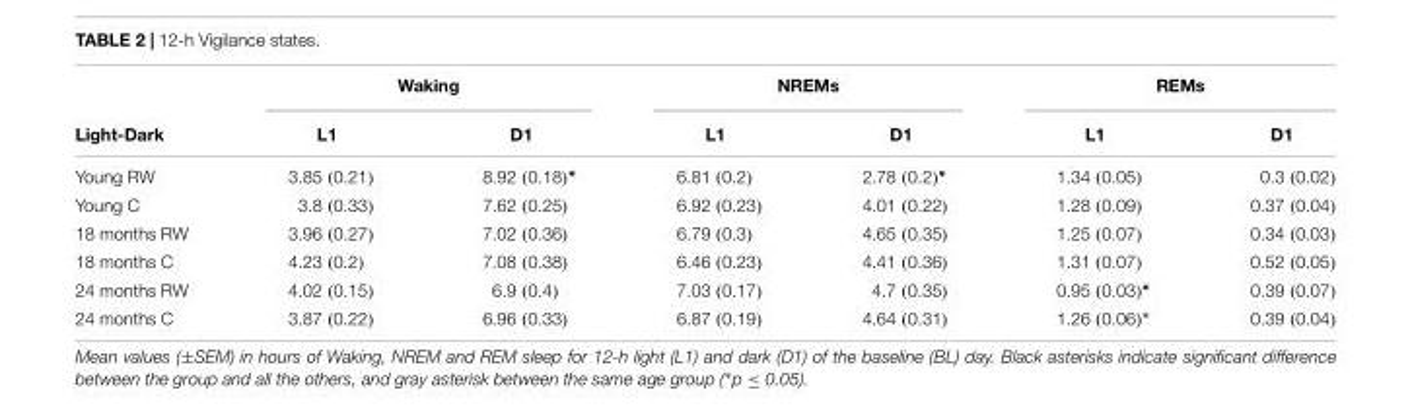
<table><thead><tr><td rowspan="2">Light-Dark</td><td colspan="2">Waking</td><td colspan="2">NREMs</td><td colspan="2">REMs</td></tr><tr><td>L1</td><td>D1</td><td>L1</td><td>D1</td><td>L1</td><td>D1</td></tr></thead><tbody><tr><td>Young RW</td><td>3.85 (0.21)</td><td>8.92 (0.18)∗</td><td>6.81 (0.2)</td><td>2.78 (0.2)∗</td><td>1.34 (0.05)</td><td>0.3 (0.02)</td></tr><tr><td>Young C</td><td>3.8 (0.33)</td><td>7.62 (0.25)</td><td>6.92 (0.23)</td><td>4.01 (0.22)</td><td>1.28 (0.09)</td><td>0.37 (0.04)</td></tr><tr><td>18 months RW</td><td>3.96 (0.27)</td><td>7.02 (0.36)</td><td>6.79 (0.3)</td><td>4.65 (0.35)</td><td>1.25 (0.07)</td><td>0.34 (0.03)</td></tr><tr><td>18 months C</td><td>4.23 (0.2)</td><td>7.08 (0.38)</td><td>6.46 (0.23)</td><td>4.41 (0.36)</td><td>1.31 (0.07)</td><td>0.52 (0.05)</td></tr><tr><td>24 months RW</td><td>4.02 (0.15)</td><td>6.9 (0.4)</td><td>7.03 (0.17)</td><td>4.7 (0.35)</td><td>0.95 (0.03)∗</td><td>0.39 (0.07)</td></tr><tr><td>24 months C</td><td>3.87 (0.22)</td><td>6.96 (0.33)</td><td>6.87 (0.19)</td><td>4.64 (0.31)</td><td>1.26 (0.06)∗</td><td>0.39 (0.04)</td></tr></tbody></table>